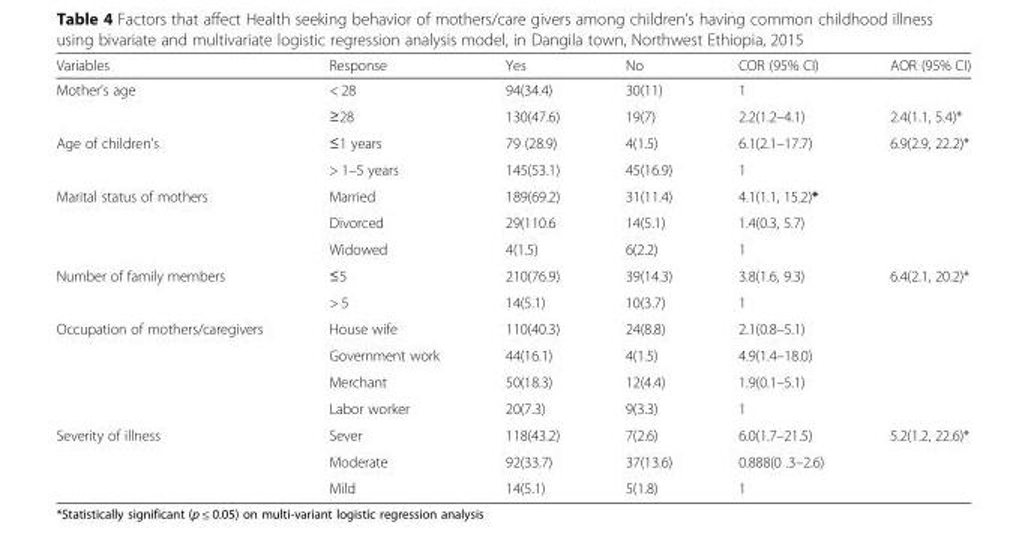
<table><thead><tr><td>Variables</td><td>Response</td><td>Yes</td><td>No</td><td>COR (95% CI)</td><td>AOR (95% CI)</td></tr></thead><tbody><tr><td rowspan="2">Mother’s age</td><td>&lt; 28</td><td>94(34.4)</td><td>30(11)</td><td>1</td><td></td></tr><tr><td>≥28</td><td>130(47.6)</td><td>19(7)</td><td>2.2(1.2–4.1)</td><td>2.4(1.1, 5.4)*</td></tr><tr><td rowspan="2">Age of children’s</td><td>≤1 years</td><td>79 (28.9)</td><td>4(1.5)</td><td>6.1(2.1–17.7)</td><td>6.9(2.9, 22.2)*</td></tr><tr><td>&gt; 1–5 years</td><td>145(53.1)</td><td>45(16.9)</td><td>1</td><td></td></tr><tr><td rowspan="3">Marital status of mothers</td><td>Married</td><td>189(69.2)</td><td>31(11.4)</td><td>4.1(1.1, 15.2)*</td><td></td></tr><tr><td>Divorced</td><td>29(110.6</td><td>14(5.1)</td><td>1.4(0.3, 5.7)</td><td></td></tr><tr><td>Widowed</td><td>4(1.5)</td><td>6(2.2)</td><td>1</td><td></td></tr><tr><td rowspan="2">Number of family members</td><td>≤5</td><td>210(76.9)</td><td>39(14.3)</td><td>3.8(1.6, 9.3)</td><td>6.4(2.1, 20.2)*</td></tr><tr><td>&gt; 5</td><td>14(5.1)</td><td>10(3.7)</td><td>1</td><td></td></tr><tr><td rowspan="4">Occupation of mothers/caregivers</td><td>House wife</td><td>110(40.3)</td><td>24(8.8)</td><td>2.1(0.8–5.1)</td><td></td></tr><tr><td>Government work</td><td>44(16.1)</td><td>4(1.5)</td><td>4.9(1.4–18.0)</td><td></td></tr><tr><td>Merchant</td><td>50(18.3)</td><td>12(4.4)</td><td>1.9(0.1–5.1)</td><td></td></tr><tr><td>Labor worker</td><td>20(7.3)</td><td>9(3.3)</td><td>1</td><td></td></tr><tr><td rowspan="3">Severity of illness</td><td>Sever</td><td>118(43.2)</td><td>7(2.6)</td><td>6.0(1.7–21.5)</td><td>5.2(1.2, 22.6)*</td></tr><tr><td>Moderate</td><td>92(33.7)</td><td>37(13.6)</td><td>0.888(0 .3–2.6)</td><td></td></tr><tr><td>Mild</td><td>14(5.1)</td><td>5(1.8)</td><td>1</td><td></td></tr></tbody></table>